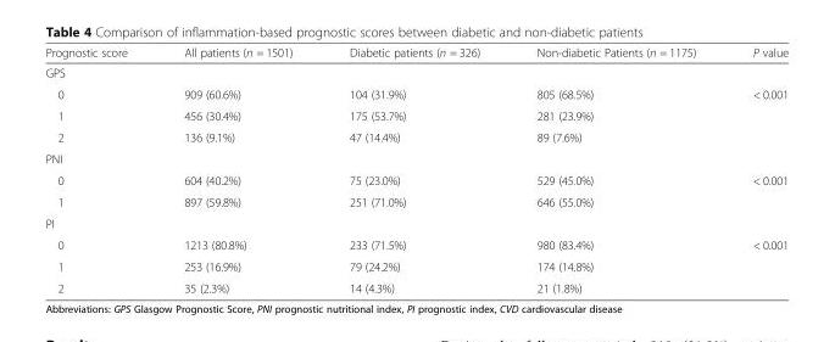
<table><thead><tr><td>Prognostic score</td><td>All patients (n = 1501)</td><td>Diabetic patients (n = 326)</td><td>Non-diabetic Patients (n = 1175)</td><td>P value</td></tr></thead><tbody><tr><td colspan="5">GPS</td></tr><tr><td>0</td><td>909 (60.6%)</td><td>104 (31.9%)</td><td>805 (68.5%)</td><td>&lt; 0.001</td></tr><tr><td>1</td><td>456 (30.4%)</td><td>175 (53.7%)</td><td>281 (23.9%)</td><td></td></tr><tr><td>2</td><td>136 (9.1%)</td><td>47 (14.4%)</td><td>89 (7.6%)</td><td></td></tr><tr><td colspan="5">PNI</td></tr><tr><td>0</td><td>604 (40.2%)</td><td>75 (23.0%)</td><td>529 (45.0%)</td><td>&lt; 0.001</td></tr><tr><td>1</td><td>897 (59.8%)</td><td>251 (71.0%)</td><td>646 (55.0%)</td><td></td></tr><tr><td colspan="5">PI</td></tr><tr><td>0</td><td>1213 (80.8%)</td><td>233 (71.5%)</td><td>980 (83.4%)</td><td>&lt; 0.001</td></tr><tr><td>1</td><td>253 (16.9%)</td><td>79 (24.2%)</td><td>174 (14.8%)</td><td></td></tr><tr><td>2</td><td>35 (2.3%)</td><td>14 (4.3%)</td><td>21 (1.8%)</td><td></td></tr></tbody></table>